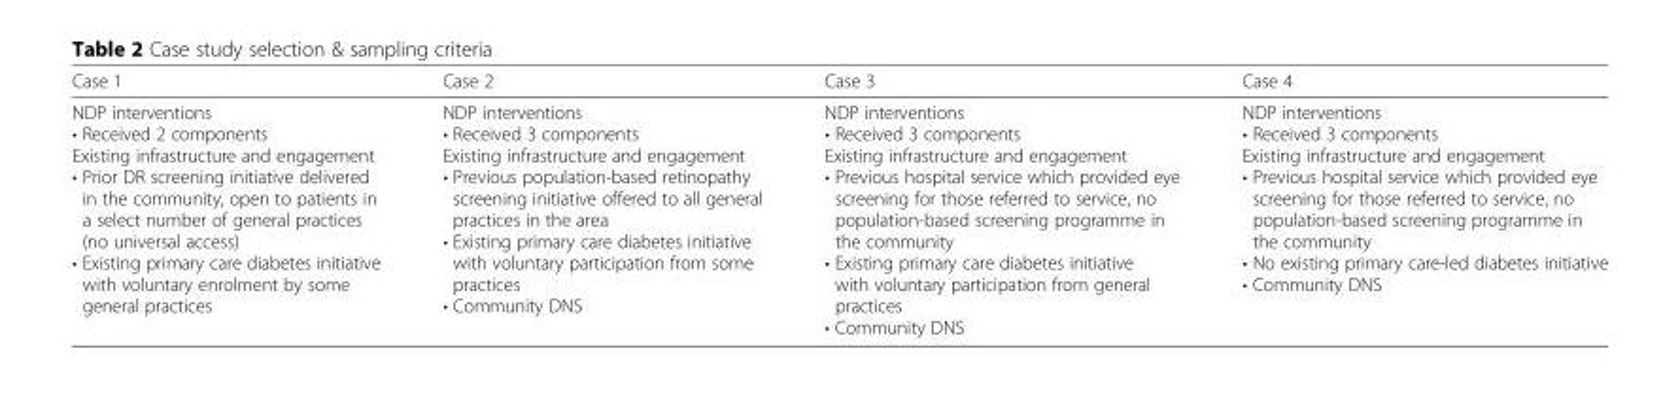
<table><thead><tr><td>Case 1</td><td>Case 2</td><td>Case 3</td><td>Case 4</td></tr></thead><tbody><tr><td>NDP interventions • Received 2 components Existing infrastructure and engagement • Prior DR screening initiative delivered in the community, open to patients in a select number of general practices (no universal access) • Existing primary care diabetes initiative with voluntary enrolment by some general practices</td><td>NDP interventions • Received 3 components Existing infrastructure and engagement • Previous population-based retinopathy screening initiative offered to all general practices in the area • Existing primary care diabetes initiative with voluntary participation from some practices • Community DNS</td><td>NDP interventions • Received 3 components Existing infrastructure and engagement • Previous hospital service which provided eye screening for those referred to service, no population-based screening programme in the community • Existing primary care diabetes initiative with voluntary participation from general practices • Community DNS</td><td>NDP interventions • Received 3 components Existing infrastructure and engagement • Previous hospital service which provided eye screening for those referred to service, no population-based screening programme in the community • No existing primary care-led diabetes initiative • Community DNS</td></tr></tbody></table>